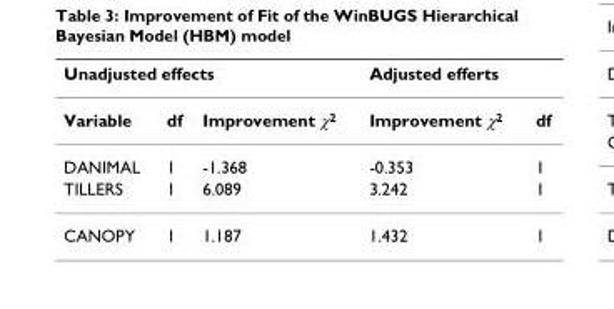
<table><thead><tr><td colspan="3">Unadjusted effects</td><td colspan="2">Adjusted efferts</td></tr><tr><td>Variable</td><td>df</td><td>Improvement χ<sup>2</sup></td><td>Improvement χ<sup>2</sup></td><td>df</td></tr></thead><tbody><tr><td>DANIMAL</td><td>1</td><td>-1.368</td><td>-0.353</td><td>1</td></tr><tr><td>TILLERS</td><td>1</td><td>6.089</td><td>3.242</td><td>1</td></tr><tr><td>CANOPY</td><td>1</td><td>1.187</td><td>1.432</td><td>1</td></tr></tbody></table>